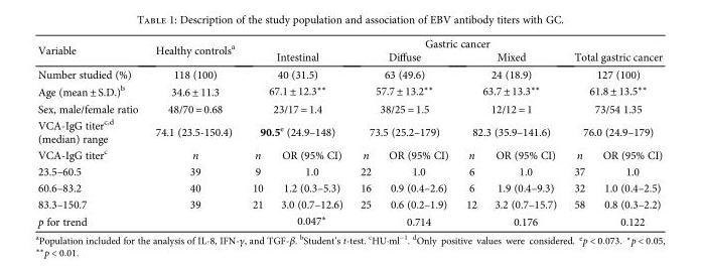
<table><thead><tr><td rowspan="2">Variable</td><td rowspan="2">Healthy controls<sup>a</sup></td><td colspan="8">Gastric cancer</td></tr><tr><td colspan="2">Intestinal</td><td colspan="2">Diffuse</td><td colspan="2">Mixed</td><td colspan="2">Total gastric cancer</td></tr></thead><tbody><tr><td>Number studied (%)</td><td>118 (100)</td><td colspan="2">40 (31.5)</td><td colspan="2">63 (49.6)</td><td colspan="2">24 (18.9)</td><td colspan="2">127 (100)</td></tr><tr><td>Age (mean ± S.D.)<sup>b</sup></td><td>34.6 ± 11.3</td><td colspan="2">67.1 ± 12.3∗∗</td><td colspan="2">57.7 ± 13.2∗∗</td><td colspan="2">63.7 ± 13.3∗∗</td><td colspan="2">61.8 ± 13.5∗∗</td></tr><tr><td>Sex, male/female ratio</td><td>48/70 = 0.68</td><td colspan="2">23/17 = 1.4</td><td colspan="2">38/25 = 1.5</td><td colspan="2">12/12 = 1</td><td colspan="2">73/54 1.35</td></tr><tr><td>VCA-IgG titer<sup>c,d</sup> (median) range</td><td>74.1 (23.5-150.4)</td><td colspan="2">90.5<sup>e</sup> (24.9–148)</td><td colspan="2">73.5 (25.2–179)</td><td colspan="2">82.3 (35.9–141.6)</td><td colspan="2">76.0 (24.9–179)</td></tr><tr><td>VCA-IgG titer<sup>c</sup></td><td>n</td><td>n</td><td>OR (95% CI)</td><td>n</td><td>OR (95% CI)</td><td>n</td><td>OR (95% CI)</td><td>n</td><td>OR (95% CI)</td></tr><tr><td>23.5–60.5</td><td>39</td><td>9</td><td>1.0</td><td>22</td><td>1.0</td><td>6</td><td>1.0</td><td>37</td><td>1.0</td></tr><tr><td>60.6–83.2</td><td>40</td><td>10</td><td>1.2 (0.3–5.3)</td><td>16</td><td>0.9 (0.4–2.6)</td><td>6</td><td>1.9 (0.4–9.3)</td><td>32</td><td>1.0 (0.4–2.5)</td></tr><tr><td>83.3–150.7</td><td>39</td><td>21</td><td>3.0 (0.7–12.6)</td><td>25</td><td>0.6 (0.2–1.9)</td><td>12</td><td>3.2 (0.7–15.7)</td><td>58</td><td>0.8 (0.3–2.2)</td></tr><tr><td>p for trend</td><td></td><td></td><td>0.047∗</td><td></td><td>0.714</td><td></td><td>0.176</td><td></td><td>0.122</td></tr></tbody></table>